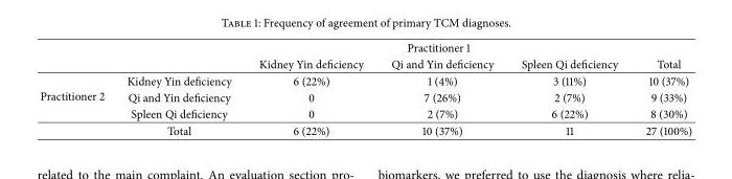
<table><thead><tr><td rowspan="2"></td><td rowspan="2"></td><td colspan="3">Practitioner 1</td><td rowspan="2">Total</td></tr><tr><td>Kidney Yin deficiency</td><td>Qi and Yin deficiency</td><td>Spleen Qi deficiency</td></tr></thead><tbody><tr><td rowspan="4">Practitioner 2</td><td>Kidney Yin deficiency</td><td>6 (22%)</td><td>1 (4%)</td><td>3 (11%)</td><td>10 (37%)</td></tr><tr><td>Qi and Yin deficiency</td><td>0</td><td>7 (26%)</td><td>2 (7%)</td><td>9 (33%)</td></tr><tr><td>Spleen Qi deficiency</td><td>0</td><td>2 (7%)</td><td>6 (22%)</td><td>8 (30%)</td></tr><tr><td>Total</td><td>6 (22%)</td><td>10 (37%)</td><td>11</td><td>27 (100%)</td></tr></tbody></table>